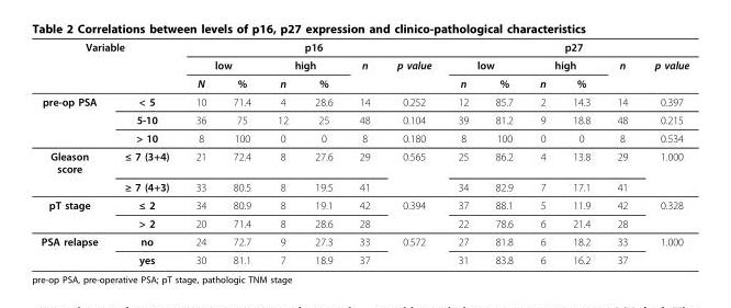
<table><thead><tr><td colspan="2">Variable</td><td colspan="6">p16</td><td colspan="6">p27</td></tr><tr><td rowspan="2"></td><td rowspan="2"></td><td colspan="2">low</td><td colspan="2">high</td><td rowspan="2">n</td><td rowspan="2">p value</td><td colspan="2">low</td><td colspan="2">high</td><td rowspan="2">n</td><td rowspan="2">p value</td></tr><tr><td>N</td><td>%</td><td>n</td><td>%</td><td>n</td><td>%</td><td>n</td><td>%</td></tr></thead><tbody><tr><td rowspan="3">pre-op PSA</td><td>&lt; 5</td><td>10</td><td>71.4</td><td>4</td><td>28.6</td><td>14</td><td>0.252</td><td>12</td><td>85.7</td><td>2</td><td>14.3</td><td>14</td><td>0.397</td></tr><tr><td>5-10</td><td>36</td><td>75</td><td>12</td><td>25</td><td>48</td><td>0.104</td><td>39</td><td>81.2</td><td>9</td><td>18.8</td><td>48</td><td>0.215</td></tr><tr><td>&gt; 10</td><td>8</td><td>100</td><td>0</td><td>0</td><td>8</td><td>0.180</td><td>8</td><td>100</td><td>0</td><td>0</td><td>8</td><td>0.534</td></tr><tr><td rowspan="2">Gleason score</td><td>≤ 7 (3+4)</td><td>21</td><td>72.4</td><td>8</td><td>27.6</td><td>29</td><td>0.565</td><td>25</td><td>86.2</td><td>4</td><td>13.8</td><td>29</td><td>1.000</td></tr><tr><td>≥ 7 (4+3)</td><td>33</td><td>80.5</td><td>8</td><td>19.5</td><td>41</td><td></td><td>34</td><td>82.9</td><td>7</td><td>17.1</td><td>41</td><td></td></tr><tr><td rowspan="2">pT stage</td><td>≤ 2</td><td>34</td><td>80.9</td><td>8</td><td>19.1</td><td>42</td><td>0.394</td><td>37</td><td>88.1</td><td>5</td><td>11.9</td><td>42</td><td>0.328</td></tr><tr><td>&gt; 2</td><td>20</td><td>71.4</td><td>8</td><td>28.6</td><td>28</td><td></td><td>22</td><td>78.6</td><td>6</td><td>21.4</td><td>28</td><td></td></tr><tr><td rowspan="2">PSA relapse</td><td>no</td><td>24</td><td>72.7</td><td>9</td><td>27.3</td><td>33</td><td>0.572</td><td>27</td><td>81.8</td><td>6</td><td>18.2</td><td>33</td><td>1.000</td></tr><tr><td>yes</td><td>30</td><td>81.1</td><td>7</td><td>18.9</td><td>37</td><td></td><td>31</td><td>83.8</td><td>6</td><td>16.2</td><td>37</td><td></td></tr></tbody></table>